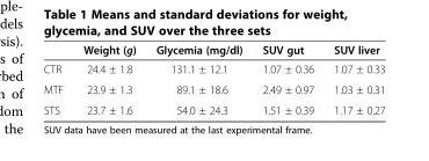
<table><thead><tr><td></td><td>Weight (g)</td><td>Glycemia (mg/dl)</td><td>SUV gut</td><td>SUV liver</td></tr></thead><tbody><tr><td>CTR</td><td>24.4 ± 1.8</td><td>131.1 ± 12.1</td><td>1.07 ± 0.36</td><td>1.07 ± 0.33</td></tr><tr><td>MTF</td><td>23.9 ± 1.3</td><td>89.1 ± 18.6</td><td>2.49 ± 0.97</td><td>1.03 ± 0.31</td></tr><tr><td>STS</td><td>23.7 ± 1.6</td><td>54.0 ± 24.3</td><td>1.51 ± 0.39</td><td>1.17 ± 0.27</td></tr></tbody></table>